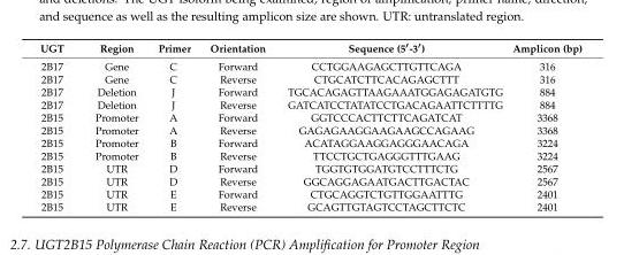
<table><thead><tr><td>UGT</td><td>Region</td><td>Primer</td><td>Orientation</td><td>Sequence (5′-3′)</td><td>Amplicon (bp)</td></tr></thead><tbody><tr><td>2B17</td><td>Gene</td><td>C</td><td>Forward</td><td>CCTGGAAGAGCTTGTTCAGA</td><td>316</td></tr><tr><td>2B17</td><td>Gene</td><td>C</td><td>Reverse</td><td>CTGCATCTTCACAGAGCTTT</td><td>316</td></tr><tr><td>2B17</td><td>Deletion</td><td>J</td><td>Forward</td><td>TGCACAGAGTTAAGAAATGGAGAGATGTG</td><td>884</td></tr><tr><td>2B17</td><td>Deletion</td><td>J</td><td>Reverse</td><td>GATCATCCTATATCCTGACAGAATTCTTTTG</td><td>884</td></tr><tr><td>2B15</td><td>Promoter</td><td>A</td><td>Forward</td><td>GGTCCCACTTCTTCAGATCAT</td><td>3368</td></tr><tr><td>2B15</td><td>Promoter</td><td>A</td><td>Reverse</td><td>GAGAGAAGGAAGAAGCCAGAAG</td><td>3368</td></tr><tr><td>2B15</td><td>Promoter</td><td>B</td><td>Forward</td><td>ACATAGGAAGGAGGGAACAGA</td><td>3224</td></tr><tr><td>2B15</td><td>Promoter</td><td>B</td><td>Reverse</td><td>TTCCTGCTGAGGGTTTGAAG</td><td>3224</td></tr><tr><td>2B15</td><td>UTR</td><td>D</td><td>Forward</td><td>TGGTGTGGATGTCCTTTCTG</td><td>2567</td></tr><tr><td>2B15</td><td>UTR</td><td>D</td><td>Reverse</td><td>GGCAGGAGAATGACTTGACTAC</td><td>2567</td></tr><tr><td>2B15</td><td>UTR</td><td>E</td><td>Forward</td><td>CTGCAGGTCTGTTGGAATTTG</td><td>2401</td></tr><tr><td>2B15</td><td>UTR</td><td>E</td><td>Reverse</td><td>GCAGTTGTAGTCCTAGCTTCTC</td><td>2401</td></tr></tbody></table>